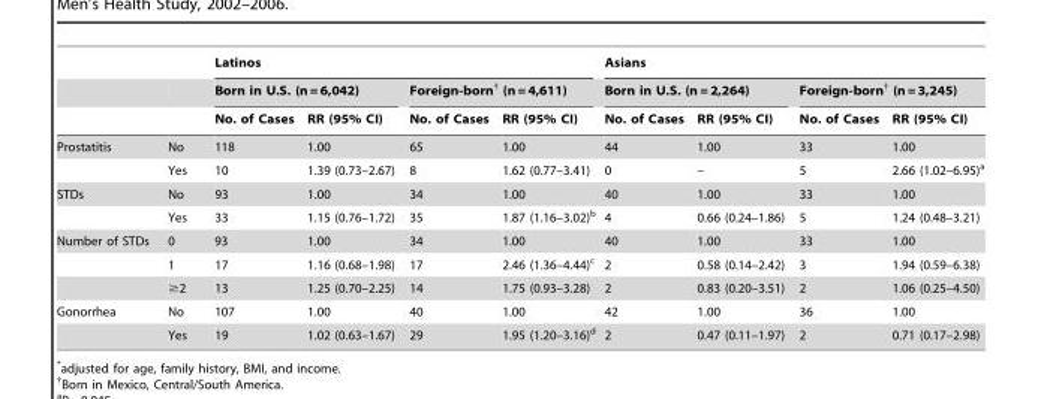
<table><thead><tr><td rowspan="3"></td><td rowspan="3"></td><td colspan="4">Latinos</td><td colspan="4">Asians</td></tr><tr><td colspan="2">Born in U.S. (n = 6,042)</td><td colspan="2">Foreign-born† (n = 4,611)</td><td colspan="2">Born in U.S. (n = 2,264)</td><td colspan="2">Foreign-born† (n = 3,245)</td></tr><tr><td>No. of Cases</td><td>RR (95% CI)</td><td>No. of Cases</td><td>RR (95% CI)</td><td>No. of Cases</td><td>RR (95% CI)</td><td>No. of Cases</td><td>RR (95% CI)</td></tr></thead><tbody><tr><td rowspan="2">Prostatitis</td><td>No</td><td>118</td><td>1.00</td><td>65</td><td>1.00</td><td>44</td><td>1.00</td><td>33</td><td>1.00</td></tr><tr><td>Yes</td><td>10</td><td>1.39 (0.73–2.67)</td><td>8</td><td>1.62 (0.77–3.41)</td><td>0</td><td>–</td><td>5</td><td>2.66 (1.02–6.95)<sup>a</sup></td></tr><tr><td rowspan="2">STDs</td><td>No</td><td>93</td><td>1.00</td><td>34</td><td>1.00</td><td>40</td><td>1.00</td><td>33</td><td>1.00</td></tr><tr><td>Yes</td><td>33</td><td>1.15 (0.76–1.72)</td><td>35</td><td>1.87 (1.16–3.02)<sup>b</sup></td><td>4</td><td>0.66 (0.24–1.86)</td><td>5</td><td>1.24 (0.48–3.21)</td></tr><tr><td rowspan="3">Number of STDs</td><td>0</td><td>93</td><td>1.00</td><td>34</td><td>1.00</td><td>40</td><td>1.00</td><td>33</td><td>1.00</td></tr><tr><td>1</td><td>17</td><td>1.16 (0.68–1.98)</td><td>17</td><td>2.46 (1.36–4.44)<sup>c</sup></td><td>2</td><td>0.58 (0.14–2.42)</td><td>3</td><td>1.94 (0.59–6.38)</td></tr><tr><td>≥2</td><td>13</td><td>1.25 (0.70–2.25)</td><td>14</td><td>1.75 (0.93–3.28)</td><td>2</td><td>0.83 (0.20–3.51)</td><td>2</td><td>1.06 (0.25–4.50)</td></tr><tr><td rowspan="2">Gonorrhea</td><td>No</td><td>107</td><td>1.00</td><td>40</td><td>1.00</td><td>42</td><td>1.00</td><td>36</td><td>1.00</td></tr><tr><td>Yes</td><td>19</td><td>1.02 (0.63–1.67)</td><td>29</td><td>1.95 (1.20–3.16)<sup>d</sup></td><td>2</td><td>0.47 (0.11–1.97)</td><td>2</td><td>0.71 (0.17–2.98)</td></tr></tbody></table>